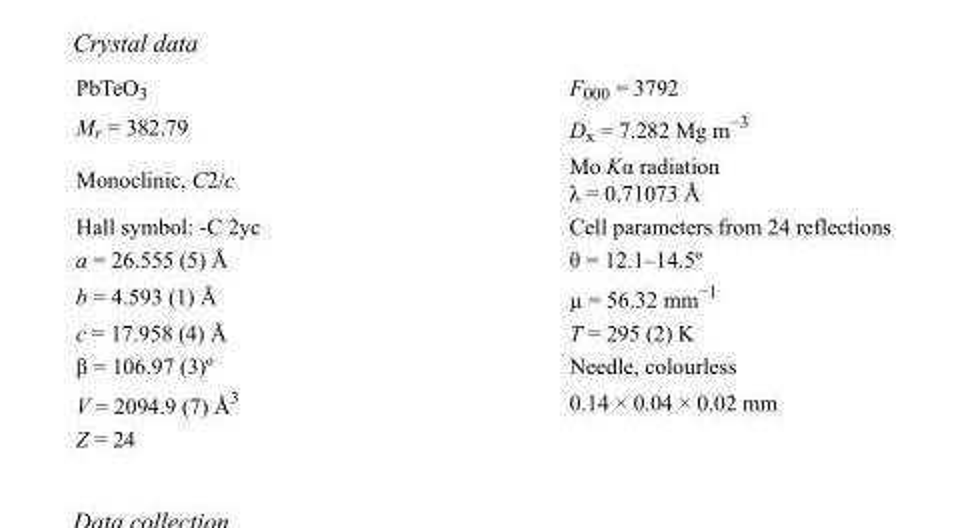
<table><tbody><tr><td>PbTeO<sub>3</sub></td><td>F<sub>000</sub> = 3792</td></tr><tr><td>M<sub>r</sub> = 382.79</td><td>D<sub>x</sub> = 7.282 Mg m<sup>−3</sup></td></tr><tr><td>Monoclinic, C2/c</td><td>Mo Kα radiation λ = 0.71073 Å</td></tr><tr><td>Hall symbol: -C 2yc</td><td>Cell parameters from 24 reflections</td></tr><tr><td>a = 26.555 (5) Å</td><td>θ = 12.1–14.5º</td></tr><tr><td>b = 4.593 (1) Å</td><td>µ = 56.32 mm<sup>−1</sup></td></tr><tr><td>c = 17.958 (4) Å</td><td>T = 295 (2) K</td></tr><tr><td>β = 106.97 (3)º</td><td>Needle, colourless</td></tr><tr><td>V = 2094.9 (7) Å<sup>3</sup></td><td>0.14 × 0.04 × 0.02 mm</td></tr><tr><td>Z = 24</td><td></td></tr></tbody></table>